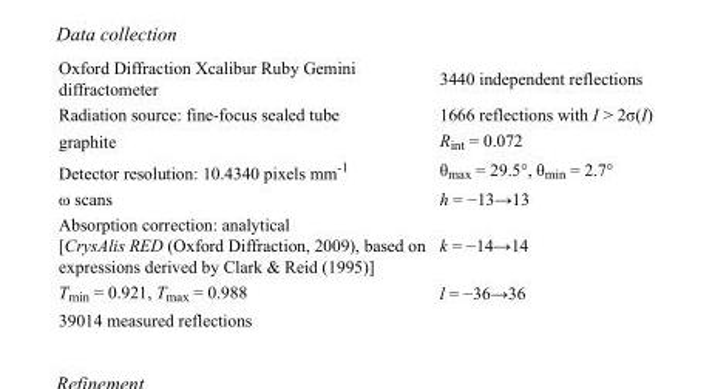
<table><tbody><tr><td>Oxford Diffraction Xcalibur Ruby Gemini diffractometer</td><td>3440 independent reflections</td></tr><tr><td>Radiation source: fine-focus sealed tube</td><td>1666 reflections with I &gt; 2σ(I)</td></tr><tr><td>graphite</td><td>R<sub>int</sub> = 0.072</td></tr><tr><td>Detector resolution: 10.4340 pixels mm<sup>-1</sup></td><td>θ<sub>max</sub> = 29.5°, θ<sub>min</sub> = 2.7°</td></tr><tr><td>ω scans</td><td>h = −13→13</td></tr><tr><td>Absorption correction: analytical [CrysAlis RED (Oxford Diffraction, 2009), based on expressions derived by Clark &amp; Reid (1995)]</td><td>k = −14→14</td></tr><tr><td>T<sub>min</sub> = 0.921, T<sub>max</sub> = 0.988</td><td>l = −36→36</td></tr><tr><td>39014 measured reflections</td><td></td></tr></tbody></table>